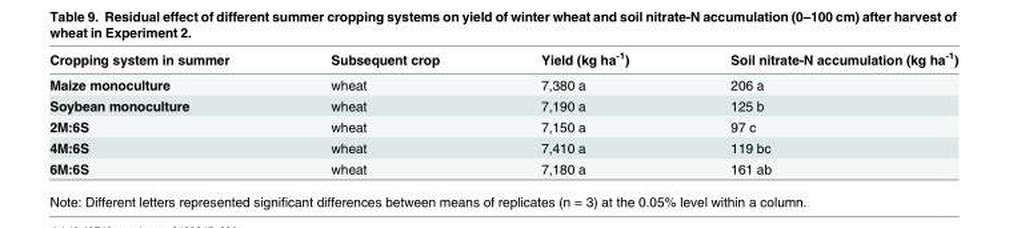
<table><thead><tr><td>Cropping system in summer</td><td>Subsequent crop</td><td>Yield (kg ha<sup>-1</sup>)</td><td>Soil nitrate-N accumulation (kg ha<sup>-1</sup>)</td></tr></thead><tbody><tr><td>Maize monoculture</td><td>wheat</td><td>7,380 a</td><td>206 a</td></tr><tr><td>Soybean monoculture</td><td>wheat</td><td>7,190 a</td><td>125 b</td></tr><tr><td>2M:6S</td><td>wheat</td><td>7,150 a</td><td>97 c</td></tr><tr><td>4M:6S</td><td>wheat</td><td>7,410 a</td><td>119 bc</td></tr><tr><td>6M:6S</td><td>wheat</td><td>7,180 a</td><td>161 ab</td></tr></tbody></table>